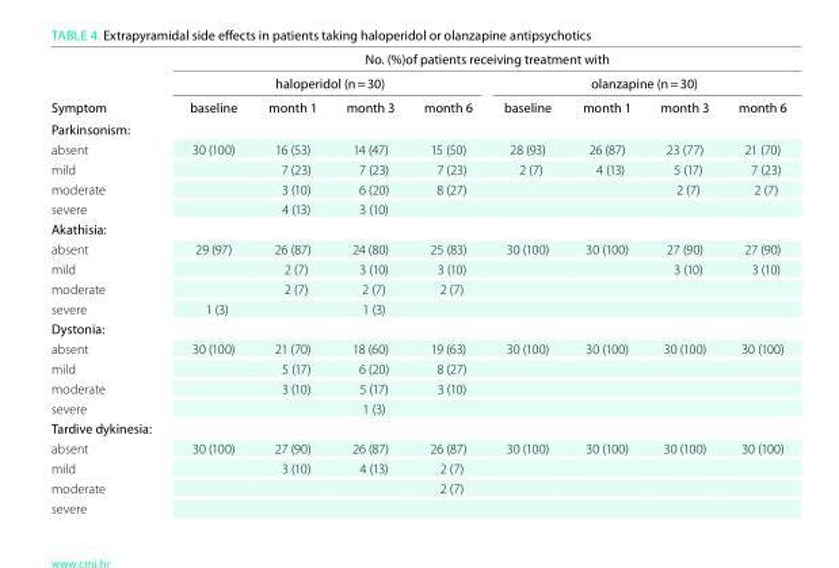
<table><thead><tr><td rowspan="3">Symptom</td><td colspan="8">No. (%)of patients receiving treatment with</td></tr><tr><td colspan="4">haloperidol (n = 30)</td><td colspan="4">olanzapine (n = 30)</td></tr><tr><td>baseline</td><td>month 1</td><td>month 3</td><td>month 6</td><td>baseline</td><td>month 1</td><td>month 3</td><td>month 6</td></tr></thead><tbody><tr><td colspan="9">Parkinsonism:</td></tr><tr><td>absent</td><td>30 (100)</td><td>16 (53)</td><td>14 (47)</td><td>15 (50)</td><td>28 (93)</td><td>26 (87)</td><td>23 (77)</td><td>21 (70)</td></tr><tr><td>mild</td><td></td><td>7 (23)</td><td>7 (23)</td><td>7 (23)</td><td>2 (7)</td><td>4 (13)</td><td>5 (17)</td><td>7 (23)</td></tr><tr><td>moderate</td><td></td><td>3 (10)</td><td>6 (20)</td><td>8 (27)</td><td></td><td></td><td>2 (7)</td><td>2 (7)</td></tr><tr><td>severe</td><td></td><td>4 (13)</td><td>3 (10)</td><td></td><td></td><td></td><td></td><td></td></tr><tr><td colspan="9">Akathisia:</td></tr><tr><td>absent</td><td>29 (97)</td><td>26 (87)</td><td>24 (80)</td><td>25 (83)</td><td>30 (100)</td><td>30 (100)</td><td>27 (90)</td><td>27 (90)</td></tr><tr><td>mild</td><td></td><td>2 (7)</td><td>3 (10)</td><td>3 (10)</td><td></td><td></td><td>3 (10)</td><td>3 (10)</td></tr><tr><td>moderate</td><td></td><td>2 (7)</td><td>2 (7)</td><td>2 (7)</td><td></td><td></td><td></td><td></td></tr><tr><td>severe</td><td>1 (3)</td><td></td><td>1 (3)</td><td></td><td></td><td></td><td></td><td></td></tr><tr><td colspan="9">Dystonia:</td></tr><tr><td>absent</td><td>30 (100)</td><td>21 (70)</td><td>18 (60)</td><td>19 (63)</td><td>30 (100)</td><td>30 (100)</td><td>30 (100)</td><td>30 (100)</td></tr><tr><td>mild</td><td></td><td>5 (17)</td><td>6 (20)</td><td>8 (27)</td><td></td><td></td><td></td><td></td></tr><tr><td>moderate</td><td></td><td>3 (10)</td><td>5 (17)</td><td>3 (10)</td><td></td><td></td><td></td><td></td></tr><tr><td>severe</td><td></td><td></td><td>1 (3)</td><td></td><td></td><td></td><td></td><td></td></tr><tr><td colspan="9">Tardive dykinesia:</td></tr><tr><td>absent</td><td>30 (100)</td><td>27 (90)</td><td>26 (87)</td><td>26 (87)</td><td>30 (100)</td><td>30 (100)</td><td>30 (100)</td><td>30 (100)</td></tr><tr><td>mild</td><td></td><td>3 (10)</td><td>4 (13)</td><td>2 (7)</td><td></td><td></td><td></td><td></td></tr><tr><td>moderate</td><td></td><td></td><td></td><td>2 (7)</td><td></td><td></td><td></td><td></td></tr><tr><td>severe</td><td></td><td></td><td></td><td></td><td></td><td></td><td></td><td></td></tr></tbody></table>